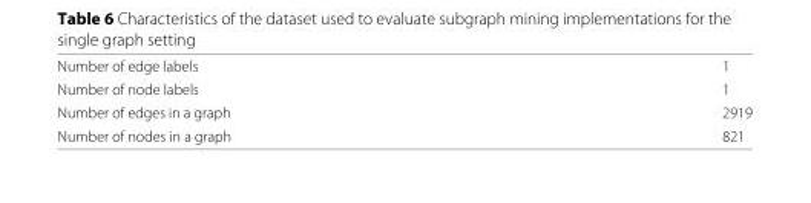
<table><tbody><tr><td>Number of edge labels</td><td>1</td></tr><tr><td>Number of node labels</td><td>1</td></tr><tr><td>Number of edges in a graph</td><td>2919</td></tr><tr><td>Number of nodes in a graph</td><td>821</td></tr></tbody></table>